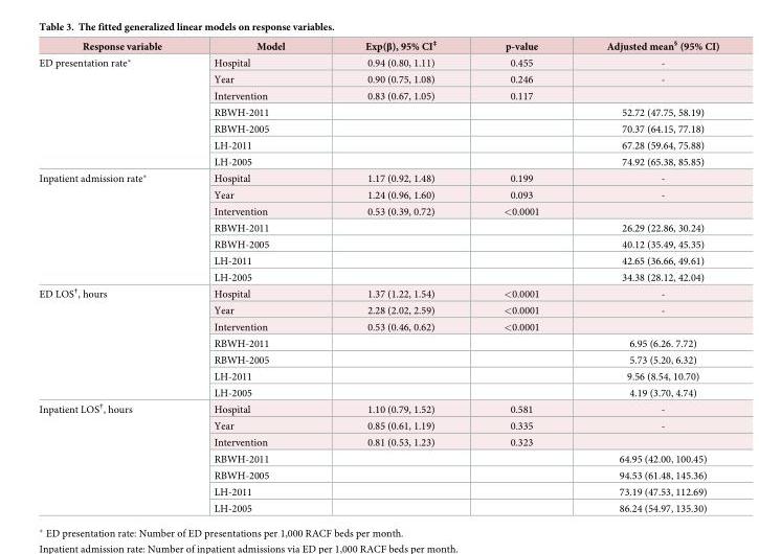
<table><thead><tr><td>Response variable</td><td>Model</td><td>Exp(β), 95% CI<sup>‡</sup></td><td>p-value</td><td>Adjusted mean<sup>§</sup> (95% CI)</td></tr></thead><tbody><tr><td rowspan="7">ED presentation rate*</td><td>Hospital</td><td>0.94 (0.80, 1.11)</td><td>0.455</td><td>-</td></tr><tr><td>Year</td><td>0.90 (0.75, 1.08)</td><td>0.246</td><td>-</td></tr><tr><td>Intervention</td><td>0.83 (0.67, 1.05)</td><td>0.117</td><td></td></tr><tr><td>RBWH-2011</td><td></td><td></td><td>52.72 (47.75, 58.19)</td></tr><tr><td>RBWH-2005</td><td></td><td></td><td>70.37 (64.15, 77.18)</td></tr><tr><td>LH-2011</td><td></td><td></td><td>67.28 (59.64, 75.88)</td></tr><tr><td>LH-2005</td><td></td><td></td><td>74.92 (65.38, 85.85)</td></tr><tr><td rowspan="7">Inpatient admission rate*</td><td>Hospital</td><td>1.17 (0.92, 1.48)</td><td>0.199</td><td>-</td></tr><tr><td>Year</td><td>1.24 (0.96, 1.60)</td><td>0.093</td><td>-</td></tr><tr><td>Intervention</td><td>0.53 (0.39, 0.72)</td><td>&lt;0.0001</td><td></td></tr><tr><td>RBWH-2011</td><td></td><td></td><td>26.29 (22.86, 30.24)</td></tr><tr><td>RBWH-2005</td><td></td><td></td><td>40.12 (35.49, 45.35)</td></tr><tr><td>LH-2011</td><td></td><td></td><td>42.65 (36.66, 49.61)</td></tr><tr><td>LH-2005</td><td></td><td></td><td>34.38 (28.12, 42.04)</td></tr><tr><td rowspan="7">ED LOS<sup>†</sup>, hours</td><td>Hospital</td><td>1.37 (1.22, 1.54)</td><td>&lt;0.0001</td><td>-</td></tr><tr><td>Year</td><td>2.28 (2.02, 2.59)</td><td>&lt;0.0001</td><td>-</td></tr><tr><td>Intervention</td><td>0.53 (0.46, 0.62)</td><td>&lt;0.0001</td><td></td></tr><tr><td>RBWH-2011</td><td></td><td></td><td>6.95 (6.26. 7.72)</td></tr><tr><td>RBWH-2005</td><td></td><td></td><td>5.73 (5.20, 6.32)</td></tr><tr><td>LH-2011</td><td></td><td></td><td>9.56 (8.54, 10.70)</td></tr><tr><td>LH-2005</td><td></td><td></td><td>4.19 (3.70, 4.74)</td></tr><tr><td rowspan="7">Inpatient LOS<sup>†</sup>, hours</td><td>Hospital</td><td>1.10 (0.79, 1.52)</td><td>0.581</td><td>-</td></tr><tr><td>Year</td><td>0.85 (0.61, 1.19)</td><td>0.335</td><td>-</td></tr><tr><td>Intervention</td><td>0.81 (0.53, 1.23)</td><td>0.323</td><td></td></tr><tr><td>RBWH-2011</td><td></td><td></td><td>64.95 (42.00, 100.45)</td></tr><tr><td>RBWH-2005</td><td></td><td></td><td>94.53 (61.48, 145.36)</td></tr><tr><td>LH-2011</td><td></td><td></td><td>73.19 (47.53, 112.69)</td></tr><tr><td>LH-2005</td><td></td><td></td><td>86.24 (54.97, 135.30)</td></tr></tbody></table>